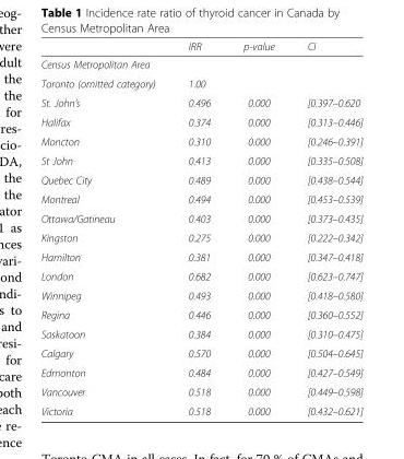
<table><thead><tr><td></td><td>IRR</td><td>p-value</td><td>CI</td></tr></thead><tbody><tr><td colspan="4">Census Metropolitan Area</td></tr><tr><td>Toronto (omitted category)</td><td>1.00</td><td></td><td></td></tr><tr><td>St. John’s</td><td>0.496</td><td>0.000</td><td>[0.397–0.620</td></tr><tr><td>Halifax</td><td>0.374</td><td>0.000</td><td>[0.313–0.446]</td></tr><tr><td>Moncton</td><td>0.310</td><td>0.000</td><td>[0.246–0.391]</td></tr><tr><td>St John</td><td>0.413</td><td>0.000</td><td>[0.335–0.508]</td></tr><tr><td>Quebec City</td><td>0.489</td><td>0.000</td><td>[0.438–0.544]</td></tr><tr><td>Montreal</td><td>0.494</td><td>0.000</td><td>[0.453–0.539]</td></tr><tr><td>Ottawa/Gatineau</td><td>0.403</td><td>0.000</td><td>[0.373–0.435]</td></tr><tr><td>Kingston</td><td>0.275</td><td>0.000</td><td>[0.222–0.342]</td></tr><tr><td>Hamilton</td><td>0.381</td><td>0.000</td><td>[0.347–0.418]</td></tr><tr><td>London</td><td>0.682</td><td>0.000</td><td>[0.623–0.747]</td></tr><tr><td>Winnipeg</td><td>0.493</td><td>0.000</td><td>[0.418–0.580]</td></tr><tr><td>Regina</td><td>0.446</td><td>0.000</td><td>[0.360–0.552]</td></tr><tr><td>Saskatoon</td><td>0.384</td><td>0.000</td><td>[0.310–0.475]</td></tr><tr><td>Calgary</td><td>0.570</td><td>0.000</td><td>[0.504–0.645]</td></tr><tr><td>Edmonton</td><td>0.484</td><td>0.000</td><td>[0.427–0.549]</td></tr><tr><td>Vancouver</td><td>0.518</td><td>0.000</td><td>[0.449–0.598]</td></tr><tr><td>Victoria</td><td>0.518</td><td>0.000</td><td>[0.432–0.621]</td></tr></tbody></table>